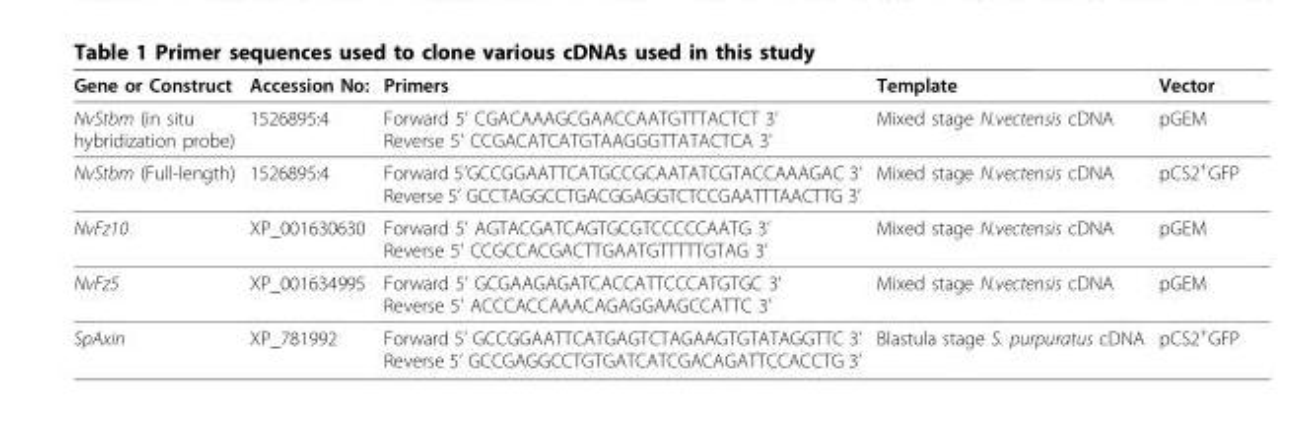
<table><thead><tr><td>Gene or Construct</td><td>Accession No:</td><td>Primers</td><td>Template</td><td>Vector</td></tr></thead><tbody><tr><td>NvStbm (in situ hybridization probe)</td><td>1526895:4</td><td>Forward 5’ CGACAAAGCGAACCAATGTTTACTCT 3’ Reverse 5’ CCGACATCATGTAAGGGTTATACTCA 3’</td><td>Mixed stage N.vectensis cDNA</td><td>pGEM</td></tr><tr><td>NvStbm (Full-length)</td><td>1526895:4</td><td>Forward 5’GCCGGAATTCATGCCGCAATATCGTACCAAAGAC 3’ Reverse 5’ GCCTAGGCCTGACGGAGGTCTCCGAATTTAACTTG 3’</td><td>Mixed stage N.vectensis cDNA</td><td>pCS2<sup>+</sup>GFP</td></tr><tr><td>NvFz10</td><td>XP_001630630</td><td>Forward 5’ AGTACGATCAGTGCGTCCCCCAATG 3’ Reverse 5’ CCGCCACGACTTGAATGTTTTTGTAG 3’</td><td>Mixed stage N.vectensis cDNA</td><td>pGEM</td></tr><tr><td>NvFz5</td><td>XP_001634995</td><td>Forward 5’ GCGAAGAGATCACCATTCCCATGTGC 3’ Reverse 5’ ACCCACCAAACAGAGGAAGCCATTC 3’</td><td>Mixed stage N.vectensis cDNA</td><td>pGEM</td></tr><tr><td>SpAxin</td><td>XP_781992</td><td>Forward 5’ GCCGGAATTCATGAGTCTAGAAGTGTATAGGTTC 3’ Reverse 5’ GCCGAGGCCTGTGATCATCGACAGATTCCACCTG 3’</td><td>Blastula stage S. purpuratus cDNA</td><td>pCS2<sup>+</sup>GFP</td></tr></tbody></table>